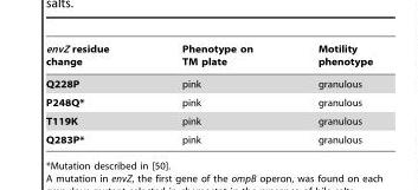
<table><thead><tr><td>envZ residue change</td><td>Phenotype on TM plate</td><td>Motility phenotype</td></tr></thead><tbody><tr><td>Q228P</td><td>pink</td><td>granulous</td></tr><tr><td>P248Q*</td><td>pink</td><td>granulous</td></tr><tr><td>T119K</td><td>pink</td><td>granulous</td></tr><tr><td>Q283P*</td><td>pink</td><td>granulous</td></tr></tbody></table>